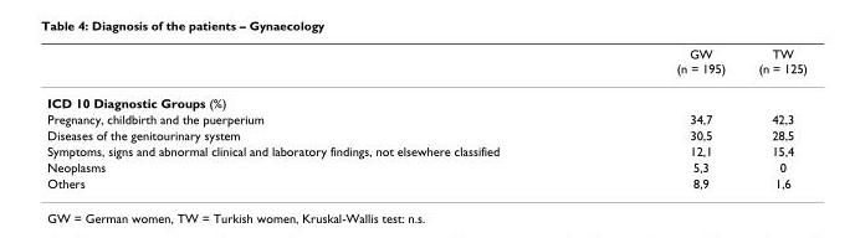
<table><thead><tr><td></td><td>GW (n = 195)</td><td>TW (n = 125)</td></tr></thead><tbody><tr><td colspan="3">ICD 10 Diagnostic Groups (%)</td></tr><tr><td>Pregnancy, childbirth and the puerperium</td><td>34,7</td><td>42,3</td></tr><tr><td>Diseases of the genitourinary system</td><td>30,5</td><td>28,5</td></tr><tr><td>Symptoms, signs and abnormal clinical and laboratory findings, not elsewhere classified</td><td>12,1</td><td>15,4</td></tr><tr><td>Neoplasms</td><td>5,3</td><td>0</td></tr><tr><td>Others</td><td>8,9</td><td>1,6</td></tr></tbody></table>